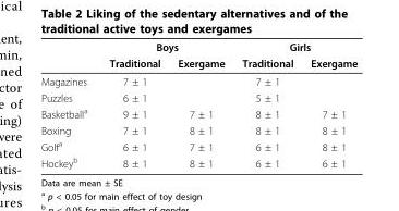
<table><thead><tr><td rowspan="2"></td><td colspan="2">Boys</td><td colspan="2">Girls</td></tr><tr><td>Traditional</td><td>Exergame</td><td>Traditional</td><td>Exergame</td></tr></thead><tbody><tr><td>Magazines</td><td>7 ± 1</td><td></td><td>7 ± 1</td><td></td></tr><tr><td>Puzzles</td><td>6 ± 1</td><td></td><td>5 ± 1</td><td></td></tr><tr><td>Basketball<sup>a</sup></td><td>9 ± 1</td><td>7 ± 1</td><td>8 ± 1</td><td>7 ± 1</td></tr><tr><td>Boxing</td><td>7 ± 1</td><td>8 ± 1</td><td>8 ± 1</td><td>8 ± 1</td></tr><tr><td>Golf<sup>a</sup></td><td>6 ± 1</td><td>7 ± 1</td><td>6 ± 1</td><td>8 ± 1</td></tr><tr><td>Hockey<sup>b</sup></td><td>8 ± 1</td><td>8 ± 1</td><td>6 ± 1</td><td>6 ± 1</td></tr></tbody></table>